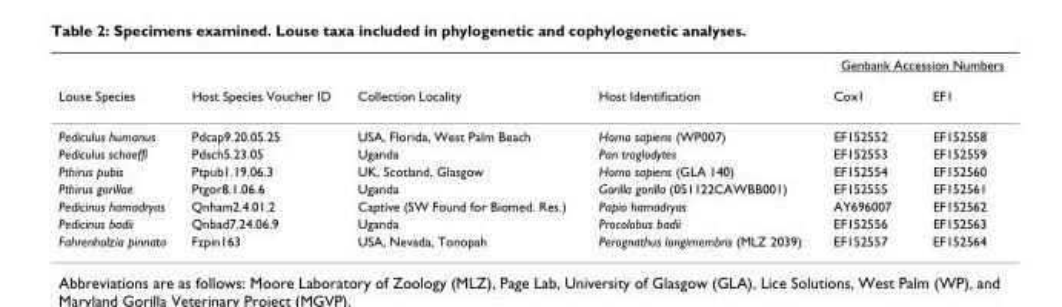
<table><thead><tr><td rowspan="2">Louse Species</td><td rowspan="2">Host Species Voucher ID</td><td rowspan="2">Collection Locality</td><td rowspan="2">Host Identification</td><td colspan="2">Genbank Accession Numbers</td></tr><tr><td>Cox1</td><td>EF1</td></tr></thead><tbody><tr><td>Pediculus humanus</td><td>Pdcap9.20.05.25</td><td>USA, Florida, West Palm Beach</td><td>Homo sapiens (WP007)</td><td>EF152552</td><td>EF152558</td></tr><tr><td>Pediculus schaeffi</td><td>Pdsch5.23.05</td><td>Uganda</td><td>Pan troglodytes</td><td>EF152553</td><td>EF152559</td></tr><tr><td>Pthirus pubis</td><td>Ptpub1.19.06.3</td><td>UK, Scotland, Glasgow</td><td>Homo sapiens (GLA 140)</td><td>EF152554</td><td>EF152560</td></tr><tr><td>Pthirus gorillae</td><td>Ptgor8.1.06.6</td><td>Uganda</td><td>Gorilla gorilla (051122CAWBB001)</td><td>EF152555</td><td>EF152561</td></tr><tr><td>Pedicinus hamadryas</td><td>Qnham2.4.01.2</td><td>Captive (SW Found for Biomed. Res.)</td><td>Papio hamadryas</td><td>AY696007</td><td>EF152562</td></tr><tr><td>Pedicinus badii</td><td>Qnbad7.24.06.9</td><td>Uganda</td><td>Procolobus badii</td><td>EF152556</td><td>EF152563</td></tr><tr><td>Fahrenholzia pinnata</td><td>Fzpin163</td><td>USA, Nevada, Tonopah</td><td>Perognathus longimembris (MLZ 2039)</td><td>EF152557</td><td>EF152564</td></tr></tbody></table>